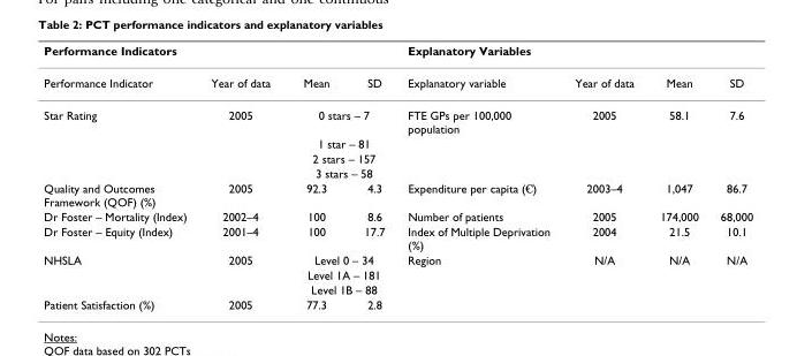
<table><thead><tr><td colspan="4">Performance Indicators</td><td colspan="4">Explanatory Variables</td></tr><tr><td>Performance Indicator</td><td>Year of data</td><td>Mean</td><td>SD</td><td>Explanatory variable</td><td>Year of data</td><td>Mean</td><td>SD</td></tr></thead><tbody><tr><td rowspan="4">Star Rating</td><td>2005</td><td colspan="2">0 stars – 7</td><td>FTE GPs per 100,000 population</td><td>2005</td><td>58.1</td><td>7.6</td></tr><tr><td></td><td colspan="2">1 star – 81</td><td></td><td></td><td></td><td></td></tr><tr><td></td><td colspan="2">2 stars – 157</td><td></td><td></td><td></td><td></td></tr><tr><td></td><td colspan="2">3 stars – 58</td><td></td><td></td><td></td><td></td></tr><tr><td>Quality and Outcomes Framework (QOF) (%)</td><td>2005</td><td>92.3</td><td>4.3</td><td>Expenditure per capita (€)</td><td>2003–4</td><td>1,047</td><td>86.7</td></tr><tr><td>Dr Foster – Mortality (Index)</td><td>2002–4</td><td>100</td><td>8.6</td><td>Number of patients</td><td>2005</td><td>174,000</td><td>68,000</td></tr><tr><td>Dr Foster – Equity (Index)</td><td>2001–4</td><td>100</td><td>17.7</td><td>Index of Multiple Deprivation (%)</td><td>2004</td><td>21.5</td><td>10.1</td></tr><tr><td rowspan="3">NHSLA</td><td>2005</td><td colspan="2">Level 0 – 34</td><td>Region</td><td>N/A</td><td>N/A</td><td>N/A</td></tr><tr><td></td><td colspan="2">Level 1A – 181</td><td></td><td></td><td></td><td></td></tr><tr><td></td><td colspan="2">Level 1B – 88</td><td></td><td></td><td></td><td></td></tr><tr><td>Patient Satisfaction (%)</td><td>2005</td><td>77.3</td><td>2.8</td><td></td><td></td><td></td><td></td></tr></tbody></table>